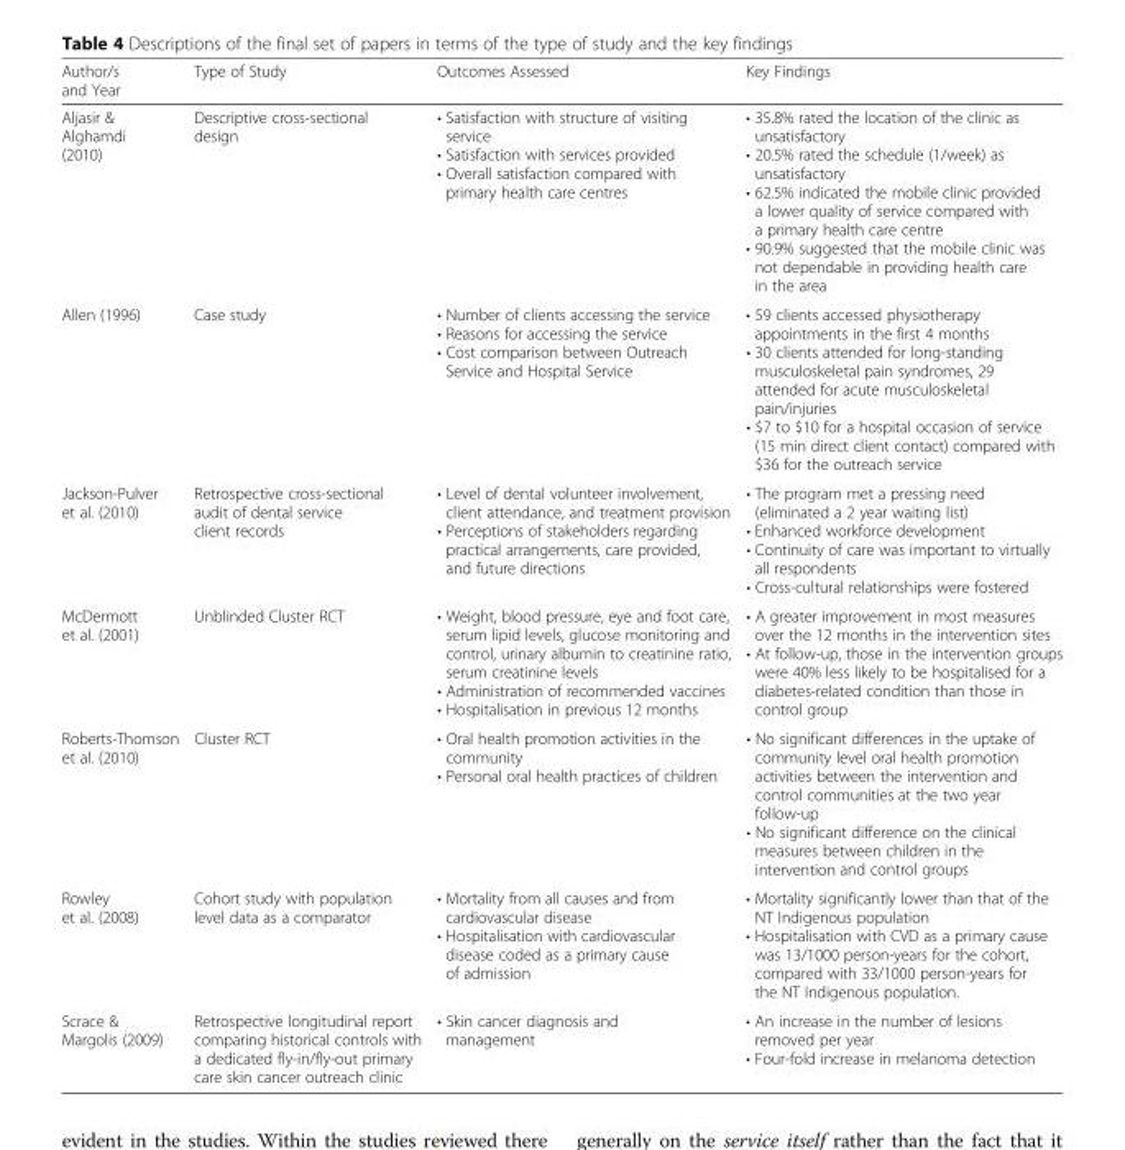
<table><thead><tr><td>Author/s and Year</td><td>Type of Study</td><td>Outcomes Assessed</td><td>Key Findings</td></tr></thead><tbody><tr><td>Aljasir &amp; Alghamdi (2010)</td><td>Descriptive cross-sectional design</td><td>• Satisfaction with structure of visiting service • Satisfaction with services provided • Overall satisfaction compared with primary health care centres</td><td>• 35.8% rated the location of the clinic as unsatisfactory • 20.5% rated the schedule (1/week) as unsatisfactory • 62.5% indicated the mobile clinic provided a lower quality of service compared with a primary health care centre • 90.9% suggested that the mobile clinic was not dependable in providing health care in the area</td></tr><tr><td>Allen (1996)</td><td>Case study</td><td>• Number of clients accessing the service • Reasons for accessing the service • Cost comparison between Outreach Service and Hospital Service</td><td>• 59 clients accessed physiotherapy appointments in the first 4 months • 30 clients attended for long-standing musculoskeletal pain syndromes, 29 attended for acute musculoskeletal pain/injuries • $7 to $10 for a hospital occasion of service (15 min direct client contact) compared with $36 for the outreach service</td></tr><tr><td>Jackson-Pulver et al. (2010)</td><td>Retrospective cross-sectional audit of dental service client records</td><td>• Level of dental volunteer involvement, client attendance, and treatment provision • Perceptions of stakeholders regarding practical arrangements, care provided, and future directions</td><td>• The program met a pressing need (eliminated a 2 year waiting list) • Enhanced workforce development • Continuity of care was important to virtually all respondents • Cross-cultural relationships were fostered</td></tr><tr><td>McDermott et al. (2001)</td><td>Unblinded Cluster RCT</td><td>• Weight, blood pressure, eye and foot care, serum lipid levels, glucose monitoring and control, urinary albumin to creatinine ratio, serum creatinine levels • Administration of recommended vaccines • Hospitalisation in previous 12 months</td><td>• A greater improvement in most measures over the 12 months in the intervention sites • At follow-up, those in the intervention groups were 40% less likely to be hospitalised for a diabetes-related condition than those in control group</td></tr><tr><td>Roberts-Thomson et al. (2010)</td><td>Cluster RCT</td><td>• Oral health promotion activities in the community • Personal oral health practices of children</td><td>• No significant differences in the uptake of community level oral health promotion activities between the intervention and control communities at the two year follow-up • No significant difference on the clinical measures between children in the intervention and control groups</td></tr><tr><td>Rowley et al. (2008)</td><td>Cohort study with population level data as a comparator</td><td>• Mortality from all causes and from cardiovascular disease • Hospitalisation with cardiovascular disease coded as a primary cause of admission</td><td>• Mortality significantly lower than that of the NT Indigenous population • Hospitalisation with CVD as a primary cause was 13/1000 person-years for the cohort, compared with 33/1000 person-years for the NT Indigenous population.</td></tr><tr><td>Scrace &amp; Margolis (2009)</td><td>Retrospective longitudinal report comparing historical controls with a dedicated fly-in/fly-out primary care skin cancer outreach clinic</td><td>• Skin cancer diagnosis and management</td><td>• An increase in the number of lesions removed per year • Four-fold increase in melanoma detection</td></tr></tbody></table>